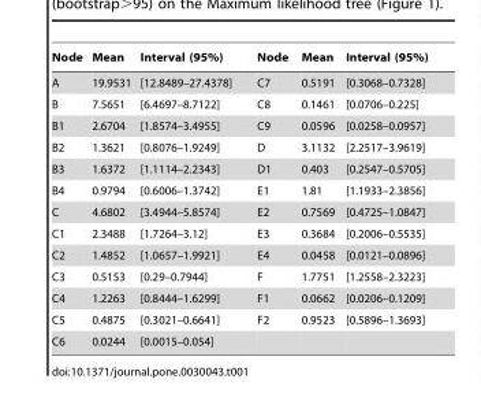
<table><thead><tr><td>Node</td><td>Mean</td><td>Interval (95%)</td><td>Node</td><td>Mean</td><td>Interval (95%)</td></tr></thead><tbody><tr><td>A</td><td>19.9531</td><td>[12.8489–27.4378]</td><td>C7</td><td>0.5191</td><td>[0.3068–0.7328]</td></tr><tr><td>B</td><td>7.5651</td><td>[6.4697–8.7122]</td><td>C8</td><td>0.1461</td><td>[0.0706–0.225]</td></tr><tr><td>B1</td><td>2.6704</td><td>[1.8574–3.4955]</td><td>C9</td><td>0.0596</td><td>[0.0258–0.0957]</td></tr><tr><td>B2</td><td>1.3621</td><td>[0.8076–1.9249]</td><td>D</td><td>3.1132</td><td>[2.2517–3.9619]</td></tr><tr><td>B3</td><td>1.6372</td><td>[1.1114–2.2343]</td><td>D1</td><td>0.403</td><td>[0.2547–0.5705]</td></tr><tr><td>B4</td><td>0.9794</td><td>[0.6006–1.3742]</td><td>E1</td><td>1.81</td><td>[1.1933–2.3856]</td></tr><tr><td>C</td><td>4.6802</td><td>[3.4944–5.8574]</td><td>E2</td><td>0.7569</td><td>[0.4725–1.0847]</td></tr><tr><td>C1</td><td>2.3488</td><td>[1.7264–3.12]</td><td>E3</td><td>0.3684</td><td>[0.2006–0.5535]</td></tr><tr><td>C2</td><td>1.4852</td><td>[1.0657–1.9921]</td><td>E4</td><td>0.0458</td><td>[0.0121–0.0896]</td></tr><tr><td>C3</td><td>0.5153</td><td>[0.29–0.7944]</td><td>F</td><td>1.7751</td><td>[1.2558–2.3223]</td></tr><tr><td>C4</td><td>1.2263</td><td>[0.8444–1.6299]</td><td>F1</td><td>0.0662</td><td>[0.0206–0.1209]</td></tr><tr><td>C5</td><td>0.4875</td><td>[0.3021–0.6641]</td><td>F2</td><td>0.9523</td><td>[0.5896–1.3693]</td></tr><tr><td>C6</td><td>0.0244</td><td>[0.0015–0.054]</td><td></td><td></td><td></td></tr></tbody></table>